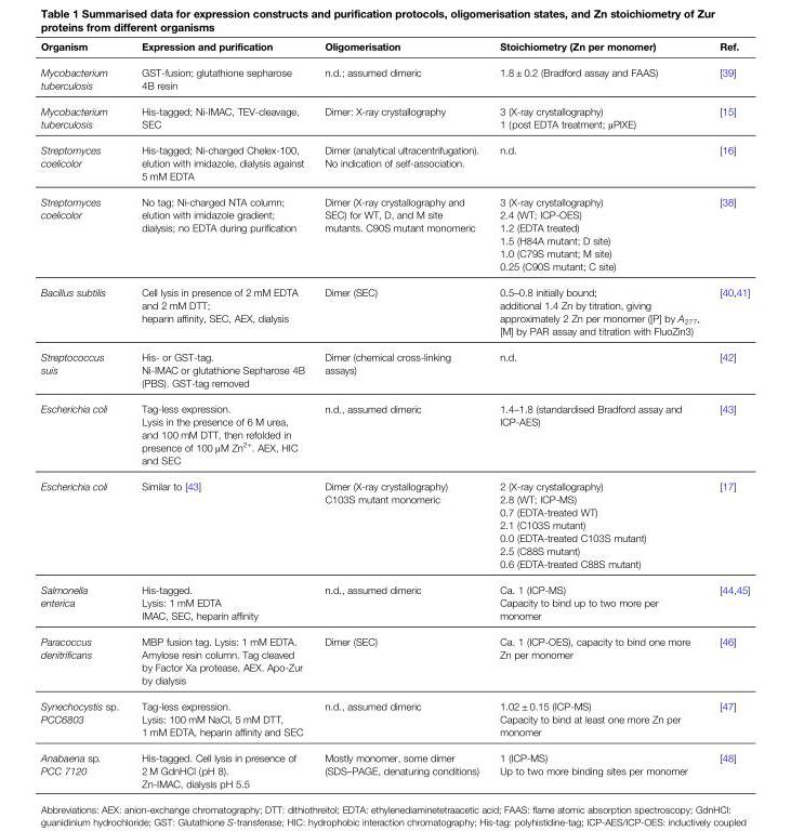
<table><thead><tr><td>Organism</td><td>Expression and purification</td><td>Oligomerisation</td><td>Stoichiometry (Zn per monomer)</td><td>Ref.</td></tr></thead><tbody><tr><td>Mycobacterium tuberculosis</td><td>GST-fusion; glutathione sepharose 4B resin</td><td>n.d.; assumed dimeric</td><td>1.8 ± 0.2 (Bradford assay and FAAS)</td><td>[39]</td></tr><tr><td>Mycobacterium tuberculosis</td><td>His-tagged; Ni-IMAC, TEV-cleavage, SEC</td><td>Dimer: X-ray crystallography</td><td>3 (X-ray crystallography) 1 (post EDTA treatment; μPIXE)</td><td>[15]</td></tr><tr><td>Streptomyces coelicolor</td><td>His-tagged; Ni-charged Chelex-100, elution with imidazole, dialysis against 5 mM EDTA</td><td>Dimer (analytical ultracentrifugation). No indication of self-association.</td><td>n.d.</td><td>[16]</td></tr><tr><td>Streptomyces coelicolor</td><td>No tag; Ni-charged NTA column; elution with imidazole gradient; dialysis; no EDTA during purification</td><td>Dimer (X-ray crystallography and SEC) for WT, D, and M site mutants. C90S mutant monomeric</td><td>3 (X-ray crystallography) 2.4 (WT; ICP-OES) 1.2 (EDTA treated) 1.5 (H84A mutant; D site) 1.0 (C79S mutant; M site) 0.25 (C90S mutant; C site)</td><td>[38]</td></tr><tr><td>Bacillus subtilis</td><td>Cell lysis in presence of 2 mM EDTA and 2 mM DTT; heparin affinity, SEC, AEX, dialysis</td><td>Dimer (SEC)</td><td>0.5–0.8 initially bound; additional 1.4 Zn by titration, giving approximately 2 Zn per monomer ([P] by A<sub>277</sub>, [M] by PAR assay and titration with FluoZin3)</td><td>[40,41]</td></tr><tr><td>Streptococcus suis</td><td>His- or GST-tag. Ni-IMAC or glutathione Sepharose 4B (PBS). GST-tag removed</td><td>Dimer (chemical cross-linking assays)</td><td>n.d.</td><td>[42]</td></tr><tr><td>Escherichia coli</td><td>Tag-less expression. Lysis in the presence of 6 M urea, and 100 mM DTT, then refolded in presence of 100 μM Zn<sup>2+</sup>. AEX, HIC and SEC</td><td>n.d., assumed dimeric</td><td>1.4–1.8 (standardised Bradford assay and ICP-AES)</td><td>[43]</td></tr><tr><td>Escherichia coli</td><td>Similar to [43]</td><td>Dimer (X-ray crystallography) C103S mutant monomeric</td><td>2 (X-ray crystallography) 2.8 (WT; ICP-MS) 0.7 (EDTA-treated WT) 2.1 (C103S mutant) 0.0 (EDTA-treated C103S mutant) 2.5 (C88S mutant) 0.6 (EDTA-treated C88S mutant)</td><td>[17]</td></tr><tr><td>Salmonella enterica</td><td>His-tagged. Lysis: 1 mM EDTA IMAC, SEC, heparin affinity</td><td>n.d., assumed dimeric</td><td>Ca. 1 (ICP-MS) Capacity to bind up to two more per monomer</td><td>[44,45]</td></tr><tr><td>Paracoccus denitrificans</td><td>MBP fusion tag. Lysis: 1 mM EDTA. Amylose resin column. Tag cleaved by Factor Xa protease, AEX. Apo-Zur by dialysis</td><td>Dimer (SEC)</td><td>Ca. 1 (ICP-OES), capacity to bind one more Zn per monomer</td><td>[46]</td></tr><tr><td>Synechocystis sp. PCC6803</td><td>Tag-less expression. Lysis: 100 mM NaCl, 5 mM DTT, 1 mM EDTA, heparin affinity and SEC</td><td>n.d., assumed dimeric</td><td>1.02 ± 0.15 (ICP-MS) Capacity to bind at least one more Zn per monomer</td><td>[47]</td></tr><tr><td>Anabaena sp. PCC 7120</td><td>His-tagged. Cell lysis in presence of 2 M GdnHCl (pH 8). Zn-IMAC, dialysis pH 5.5</td><td>Mostly monomer, some dimer (SDS–PAGE, denaturing conditions)</td><td>1 (ICP-MS) Up to two more binding sites per monomer</td><td>[48]</td></tr></tbody></table>